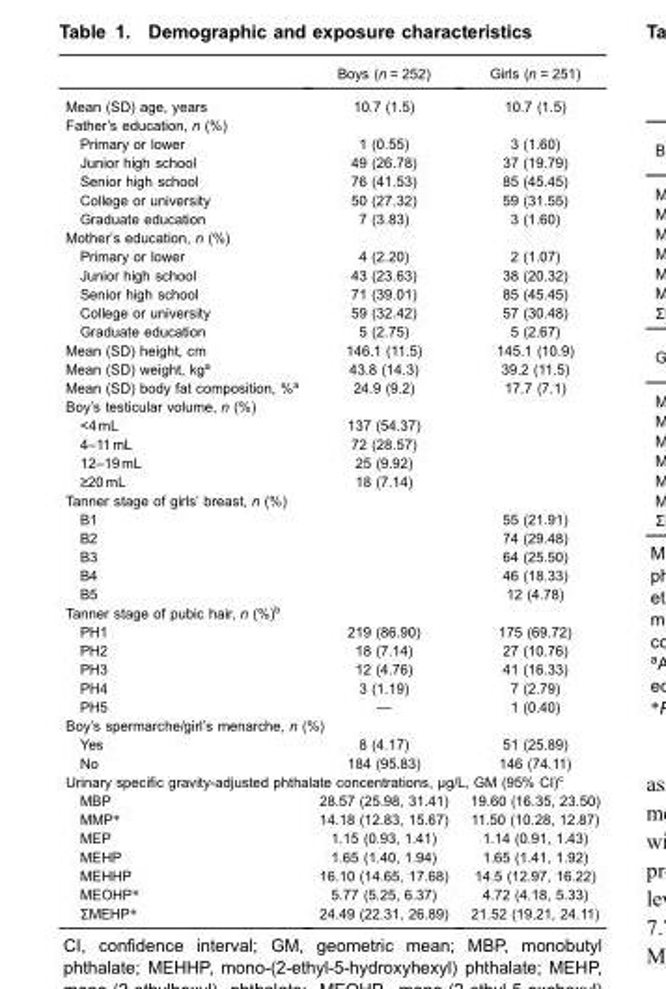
<table><thead><tr><td></td><td>Boys (n = 252)</td><td>Girls (n = 251)</td></tr></thead><tbody><tr><td>Mean (SD) age, years</td><td>10.7 (1.5)</td><td>10.7 (1.5)</td></tr><tr><td colspan="3">Father’s education, n (%)</td></tr><tr><td>Primary or lower</td><td>1 (0.55)</td><td>3 (1.60)</td></tr><tr><td>Junior high school</td><td>49 (26.78)</td><td>37 (19.79)</td></tr><tr><td>Senior high school</td><td>76 (41.53)</td><td>85 (45.45)</td></tr><tr><td>College or university</td><td>50 (27.32)</td><td>59 (31.55)</td></tr><tr><td>Graduate education</td><td>7 (3.83)</td><td>3 (1.60)</td></tr><tr><td colspan="3">Mother’s education, n (%)</td></tr><tr><td>Primary or lower</td><td>4 (2.20)</td><td>2 (1.07)</td></tr><tr><td>Junior high school</td><td>43 (23.63)</td><td>38 (20.32)</td></tr><tr><td>Senior high school</td><td>71 (39.01)</td><td>85 (45.45)</td></tr><tr><td>College or university</td><td>59 (32.42)</td><td>57 (30.48)</td></tr><tr><td>Graduate education</td><td>5 (2.75)</td><td>5 (2.67)</td></tr><tr><td>Mean (SD) height, cm</td><td>146.1 (11.5)</td><td>145.1 (10.9)</td></tr><tr><td>Mean (SD) weight, kg<sup>a</sup></td><td>43.8 (14.3)</td><td>39.2 (11.5)</td></tr><tr><td>Mean (SD) body fat composition, %<sup>a</sup></td><td>24.9 (9.2)</td><td>17.7 (7.1)</td></tr><tr><td colspan="3">Boy’s testicular volume, n (%)</td></tr><tr><td>&lt;4 mL</td><td>137 (54.37)</td><td></td></tr><tr><td>4–11 mL</td><td>72 (28.57)</td><td></td></tr><tr><td>12–19 mL</td><td>25 (9.92)</td><td></td></tr><tr><td>≥20 mL</td><td>18 (7.14)</td><td></td></tr><tr><td colspan="3">Tanner stage of girls’ breast, n (%)</td></tr><tr><td>B1</td><td></td><td>55 (21.91)</td></tr><tr><td>B2</td><td></td><td>74 (29.48)</td></tr><tr><td>B3</td><td></td><td>64 (25.50)</td></tr><tr><td>B4</td><td></td><td>46 (18.33)</td></tr><tr><td>B5</td><td></td><td>12 (4.78)</td></tr><tr><td colspan="3">Tanner stage of pubic hair, n (%)<sup>b</sup></td></tr><tr><td>PH1</td><td>219 (86.90)</td><td>175 (69.72)</td></tr><tr><td>PH2</td><td>18 (7.14)</td><td>27 (10.76)</td></tr><tr><td>PH3</td><td>12 (4.76)</td><td>41 (16.33)</td></tr><tr><td>PH4</td><td>3 (1.19)</td><td>7 (2.79)</td></tr><tr><td>PH5</td><td>—</td><td>1 (0.40)</td></tr><tr><td colspan="3">Boy’s spermarche/girl’s menarche, n (%)</td></tr><tr><td>Yes</td><td>8 (4.17)</td><td>51 (25.89)</td></tr><tr><td>No</td><td>184 (95.83)</td><td>146 (74.11)</td></tr><tr><td colspan="3">Urinary specific gravity-adjusted phthalate concentrations, µg/L, GM (95% CI)<sup>c</sup></td></tr><tr><td>MBP</td><td>28.57 (25.98, 31.41)</td><td>19.60 (16.35, 23.50)</td></tr><tr><td>MMP*</td><td>14.18 (12.83, 15.67)</td><td>11.50 (10.28, 12.87)</td></tr><tr><td>MEP</td><td>1.15 (0.93, 1.41)</td><td>1.14 (0.91, 1.43)</td></tr><tr><td>MEHP</td><td>1.65 (1.40, 1.94)</td><td>1.65 (1.41, 1.92)</td></tr><tr><td>MEHHP</td><td>16.10 (14.65, 17.68)</td><td>14.5 (12.97, 16.22)</td></tr><tr><td>MEOHP*</td><td>5.77 (5.25, 6.37)</td><td>4.72 (4.18, 5.33)</td></tr><tr><td>ΣMEHP*</td><td>24.49 (22.31, 26.89)</td><td>21.52 (19.21, 24.11)</td></tr></tbody></table>